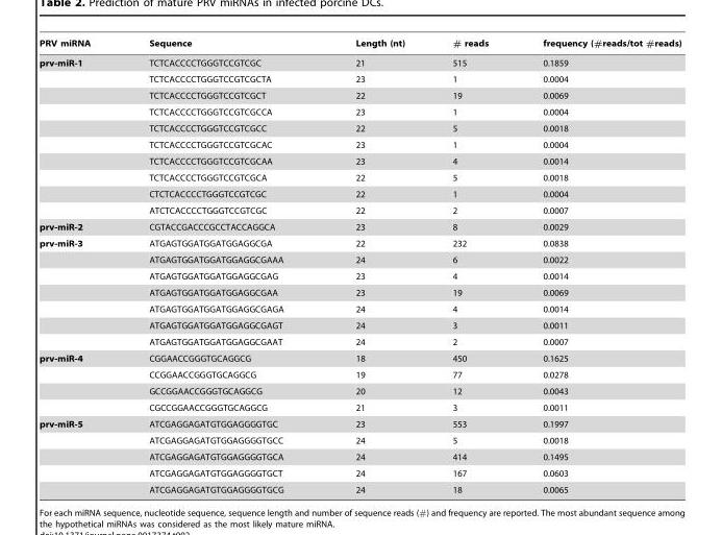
<table><thead><tr><td>PRV miRNA</td><td>Sequence</td><td>Length (nt)</td><td># reads</td><td>frequency (#reads/tot #reads)</td></tr></thead><tbody><tr><td rowspan="10">prv-miR-1</td><td>TCTCACCCCTGGGTCCGTCGC</td><td>21</td><td>515</td><td>0.1859</td></tr><tr><td>TCTCACCCCTGGGTCCGTCGCTA</td><td>23</td><td>1</td><td>0.0004</td></tr><tr><td>TCTCACCCCTGGGTCCGTCGCT</td><td>22</td><td>19</td><td>0.0069</td></tr><tr><td>TCTCACCCCTGGGTCCGTCGCCA</td><td>23</td><td>1</td><td>0.0004</td></tr><tr><td>TCTCACCCCTGGGTCCGTCGCC</td><td>22</td><td>5</td><td>0.0018</td></tr><tr><td>TCTCACCCCTGGGTCCGTCGCAC</td><td>23</td><td>1</td><td>0.0004</td></tr><tr><td>TCTCACCCCTGGGTCCGTCGCAA</td><td>23</td><td>4</td><td>0.0014</td></tr><tr><td>TCTCACCCCTGGGTCCGTCGCA</td><td>22</td><td>5</td><td>0.0018</td></tr><tr><td>CTCTCACCCCTGGGTCCGTCGC</td><td>22</td><td>1</td><td>0.0004</td></tr><tr><td>ATCTCACCCCTGGGTCCGTCGC</td><td>22</td><td>2</td><td>0.0007</td></tr><tr><td>prv-miR-2</td><td>CGTACCGACCCGCCTACCAGGCA</td><td>23</td><td>8</td><td>0.0029</td></tr><tr><td rowspan="7">prv-miR-3</td><td>ATGAGTGGATGGATGGAGGCGA</td><td>22</td><td>232</td><td>0.0838</td></tr><tr><td>ATGAGTGGATGGATGGAGGCGAAA</td><td>24</td><td>6</td><td>0.0022</td></tr><tr><td>ATGAGTGGATGGATGGAGGCGAG</td><td>23</td><td>4</td><td>0.0014</td></tr><tr><td>ATGAGTGGATGGATGGAGGCGAA</td><td>23</td><td>19</td><td>0.0069</td></tr><tr><td>ATGAGTGGATGGATGGAGGCGAGA</td><td>24</td><td>4</td><td>0.0014</td></tr><tr><td>ATGAGTGGATGGATGGAGGCGAGT</td><td>24</td><td>3</td><td>0.0011</td></tr><tr><td>ATGAGTGGATGGATGGAGGCGAAT</td><td>24</td><td>2</td><td>0.0007</td></tr><tr><td rowspan="4">prv-miR-4</td><td>CGGAACCGGGTGCAGGCG</td><td>18</td><td>450</td><td>0.1625</td></tr><tr><td>CCGGAACCGGGTGCAGGCG</td><td>19</td><td>77</td><td>0.0278</td></tr><tr><td>GCCGGAACCGGGTGCAGGCG</td><td>20</td><td>12</td><td>0.0043</td></tr><tr><td>CGCCGGAACCGGGTGCAGGCG</td><td>21</td><td>3</td><td>0.0011</td></tr><tr><td rowspan="5">prv-miR-5</td><td>ATCGAGGAGATGTGGAGGGGTGC</td><td>23</td><td>553</td><td>0.1997</td></tr><tr><td>ATCGAGGAGATGTGGAGGGGTGCC</td><td>24</td><td>5</td><td>0.0018</td></tr><tr><td>ATCGAGGAGATGTGGAGGGGTGCA</td><td>24</td><td>414</td><td>0.1495</td></tr><tr><td>ATCGAGGAGATGTGGAGGGGTGCT</td><td>24</td><td>167</td><td>0.0603</td></tr><tr><td>ATCGAGGAGATGTGGAGGGGTGCG</td><td>24</td><td>18</td><td>0.0065</td></tr></tbody></table>